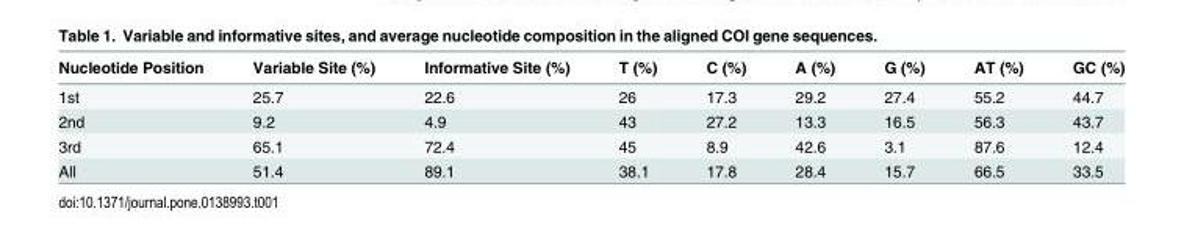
<table><thead><tr><td>Nucleotide Position</td><td>Variable Site (%)</td><td>Informative Site (%)</td><td>T (%)</td><td>C (%)</td><td>A (%)</td><td>G (%)</td><td>AT (%)</td><td>GC (%)</td></tr></thead><tbody><tr><td>1st</td><td>25.7</td><td>22.6</td><td>26</td><td>17.3</td><td>29.2</td><td>27.4</td><td>55.2</td><td>44.7</td></tr><tr><td>2nd</td><td>9.2</td><td>4.9</td><td>43</td><td>27.2</td><td>13.3</td><td>16.5</td><td>56.3</td><td>43.7</td></tr><tr><td>3rd</td><td>65.1</td><td>72.4</td><td>45</td><td>8.9</td><td>42.6</td><td>3.1</td><td>87.6</td><td>12.4</td></tr><tr><td>All</td><td>51.4</td><td>89.1</td><td>38.1</td><td>17.8</td><td>28.4</td><td>15.7</td><td>66.5</td><td>33.5</td></tr></tbody></table>